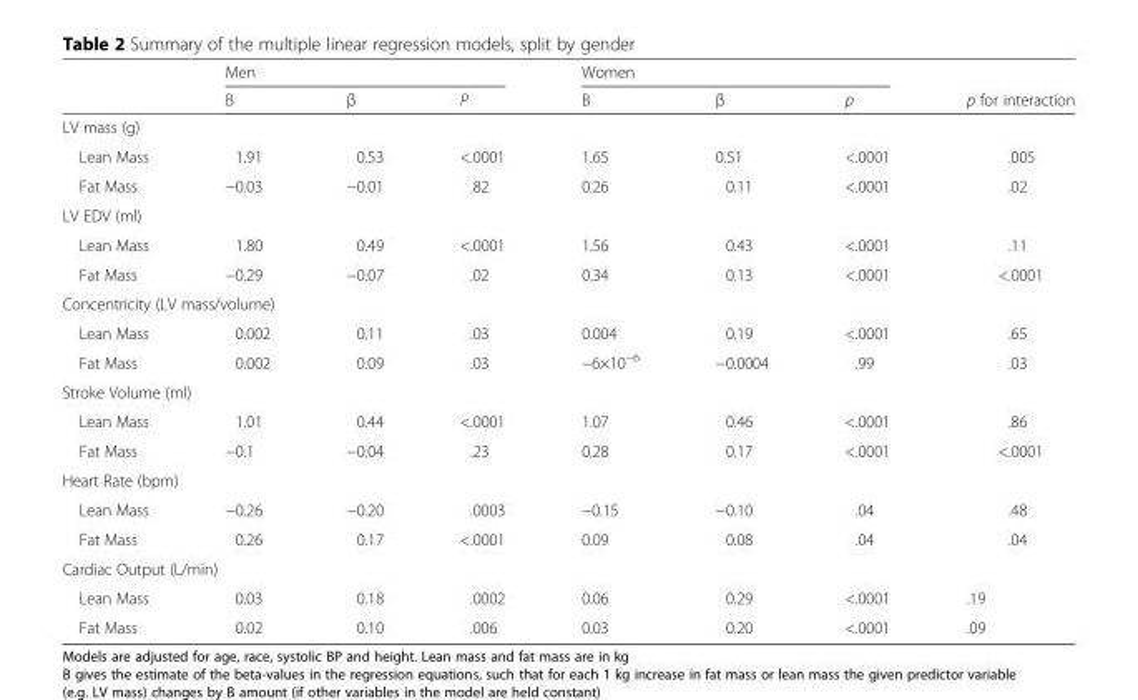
<table><thead><tr><td rowspan="2"></td><td colspan="3">Men</td><td colspan="3">Women</td><td rowspan="2">p for interaction</td></tr><tr><td>B</td><td>β</td><td>P</td><td>B</td><td>β</td><td>p</td></tr></thead><tbody><tr><td colspan="8">LV mass (g)</td></tr><tr><td>Lean Mass</td><td>1.91</td><td>0.53</td><td>&lt;.0001</td><td>1.65</td><td>0.51</td><td>&lt;.0001</td><td>.005</td></tr><tr><td>Fat Mass</td><td>−0.03</td><td>−0.01</td><td>.82</td><td>0.26</td><td>0.11</td><td>&lt;.0001</td><td>.02</td></tr><tr><td colspan="8">LV EDV (ml)</td></tr><tr><td>Lean Mass</td><td>1.80</td><td>0.49</td><td>&lt;.0001</td><td>1.56</td><td>0.43</td><td>&lt;.0001</td><td>.11</td></tr><tr><td>Fat Mass</td><td>−0.29</td><td>−0.07</td><td>.02</td><td>0.34</td><td>0.13</td><td>&lt;.0001</td><td>&lt;.0001</td></tr><tr><td colspan="8">Concentricity (LV mass/volume)</td></tr><tr><td>Lean Mass</td><td>0.002</td><td>0.11</td><td>.03</td><td>0.004</td><td>0.19</td><td>&lt;.0001</td><td>.65</td></tr><tr><td>Fat Mass</td><td>0.002</td><td>0.09</td><td>.03</td><td>−6×10<sup>−6</sup></td><td>−0.0004</td><td>.99</td><td>.03</td></tr><tr><td colspan="8">Stroke Volume (ml)</td></tr><tr><td>Lean Mass</td><td>1.01</td><td>0.44</td><td>&lt;.0001</td><td>1.07</td><td>0.46</td><td>&lt;.0001</td><td>.86</td></tr><tr><td>Fat Mass</td><td>−0.1</td><td>−0.04</td><td>.23</td><td>0.28</td><td>0.17</td><td>&lt;.0001</td><td>&lt;.0001</td></tr><tr><td colspan="8">Heart Rate (bpm)</td></tr><tr><td>Lean Mass</td><td>−0.26</td><td>−0.20</td><td>.0003</td><td>−0.15</td><td>−0.10</td><td>.04</td><td>.48</td></tr><tr><td>Fat Mass</td><td>0.26</td><td>0.17</td><td>&lt;.0001</td><td>0.09</td><td>0.08</td><td>.04</td><td>.04</td></tr><tr><td colspan="8">Cardiac Output (L/min)</td></tr><tr><td>Lean Mass</td><td>0.03</td><td>0.18</td><td>.0002</td><td>0.06</td><td>0.29</td><td>&lt;.0001</td><td>.19</td></tr><tr><td>Fat Mass</td><td>0.02</td><td>0.10</td><td>.006</td><td>0.03</td><td>0.20</td><td>&lt;.0001</td><td>.09</td></tr></tbody></table>